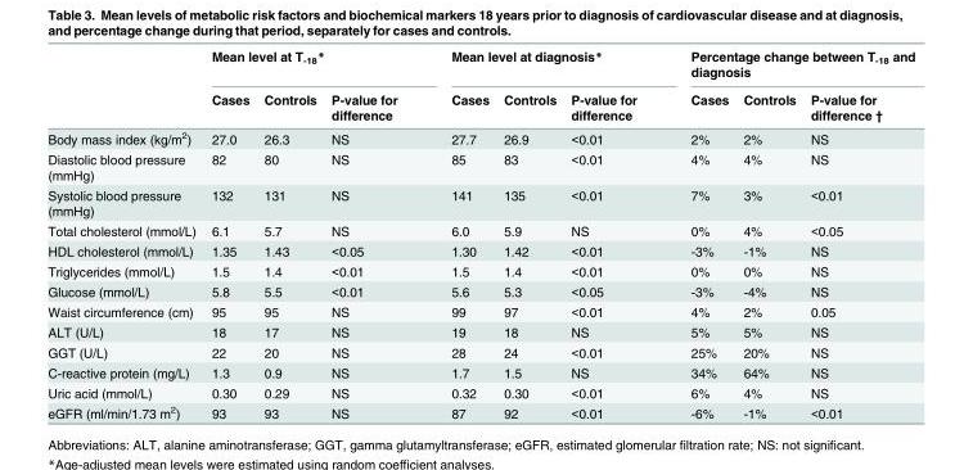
<table><thead><tr><td rowspan="2"></td><td colspan="3">Mean level at T<sub>-18</sub>*</td><td colspan="3">Mean level at diagnosis*</td><td colspan="3">Percentage change between T<sub>-18</sub> and diagnosis</td></tr><tr><td>Cases</td><td>Controls</td><td>P-value for difference</td><td>Cases</td><td>Controls</td><td>P-value for difference</td><td>Cases</td><td>Controls</td><td>P-value for difference †</td></tr></thead><tbody><tr><td>Body mass index (kg/m<sup>2</sup>)</td><td>27.0</td><td>26.3</td><td>NS</td><td>27.7</td><td>26.9</td><td>&lt;0.01</td><td>2%</td><td>2%</td><td>NS</td></tr><tr><td>Diastolic blood pressure (mmHg)</td><td>82</td><td>80</td><td>NS</td><td>85</td><td>83</td><td>&lt;0.01</td><td>4%</td><td>4%</td><td>NS</td></tr><tr><td>Systolic blood pressure (mmHg)</td><td>132</td><td>131</td><td>NS</td><td>141</td><td>135</td><td>&lt;0.01</td><td>7%</td><td>3%</td><td>&lt;0.01</td></tr><tr><td>Total cholesterol (mmol/L)</td><td>6.1</td><td>5.7</td><td>NS</td><td>6.0</td><td>5.9</td><td>NS</td><td>0%</td><td>4%</td><td>&lt;0.05</td></tr><tr><td>HDL cholesterol (mmol/L)</td><td>1.35</td><td>1.43</td><td>&lt;0.05</td><td>1.30</td><td>1.42</td><td>&lt;0.01</td><td>-3%</td><td>-1%</td><td>NS</td></tr><tr><td>Triglycerides (mmol/L)</td><td>1.5</td><td>1.4</td><td>&lt;0.01</td><td>1.5</td><td>1.4</td><td>&lt;0.01</td><td>0%</td><td>0%</td><td>NS</td></tr><tr><td>Glucose (mmol/L)</td><td>5.8</td><td>5.5</td><td>&lt;0.01</td><td>5.6</td><td>5.3</td><td>&lt;0.05</td><td>-3%</td><td>-4%</td><td>NS</td></tr><tr><td>Waist circumference (cm)</td><td>95</td><td>95</td><td>NS</td><td>99</td><td>97</td><td>&lt;0.01</td><td>4%</td><td>2%</td><td>0.05</td></tr><tr><td>ALT (U/L)</td><td>18</td><td>17</td><td>NS</td><td>19</td><td>18</td><td>NS</td><td>5%</td><td>5%</td><td>NS</td></tr><tr><td>GGT (U/L)</td><td>22</td><td>20</td><td>NS</td><td>28</td><td>24</td><td>&lt;0.01</td><td>25%</td><td>20%</td><td>NS</td></tr><tr><td>C-reactive protein (mg/L)</td><td>1.3</td><td>0.9</td><td>NS</td><td>1.7</td><td>1.5</td><td>NS</td><td>34%</td><td>64%</td><td>NS</td></tr><tr><td>Uric acid (mmol/L)</td><td>0.30</td><td>0.29</td><td>NS</td><td>0.32</td><td>0.30</td><td>&lt;0.01</td><td>6%</td><td>4%</td><td>NS</td></tr><tr><td>eGFR (ml/min/1.73 m<sup>2</sup>)</td><td>93</td><td>93</td><td>NS</td><td>87</td><td>92</td><td>&lt;0.01</td><td>-6%</td><td>-1%</td><td>&lt;0.01</td></tr></tbody></table>